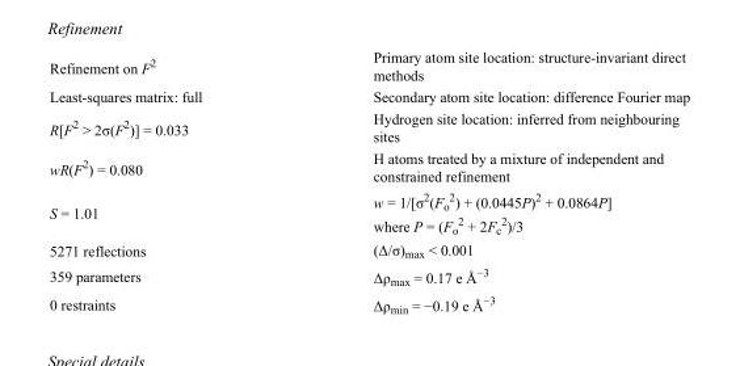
<table><tbody><tr><td>Refinement on F<sup>2</sup></td><td>Primary atom site location: structure-invariant direct methods</td></tr><tr><td>Least-squares matrix: full</td><td>Secondary atom site location: difference Fourier map</td></tr><tr><td>R[F<sup>2</sup> &gt; 2σ(F<sup>2</sup>)] = 0.033</td><td>Hydrogen site location: inferred from neighbouring sites</td></tr><tr><td>wR(F<sup>2</sup>) = 0.080</td><td>H atoms treated by a mixture of independent and constrained refinement</td></tr><tr><td>S = 1.01</td><td>w = 1/[σ<sup>2</sup>(F<sub>o</sub> <sup>2</sup>) + (0.0445P)<sup>2</sup> + 0.0864P] where P = (F<sub>o</sub> <sup>2</sup> + 2F<sub>c</sub> <sup>2</sup>)/3</td></tr><tr><td>5271 reflections</td><td>(Δ/σ)<sub>max</sub> &lt; 0.001</td></tr><tr><td>359 parameters</td><td>Δρ<sub>max</sub> = 0.17 e Å<sup>−3</sup></td></tr><tr><td>0 restraints</td><td>Δρ<sub>min</sub> = −0.19 e Å<sup>−3</sup></td></tr></tbody></table>